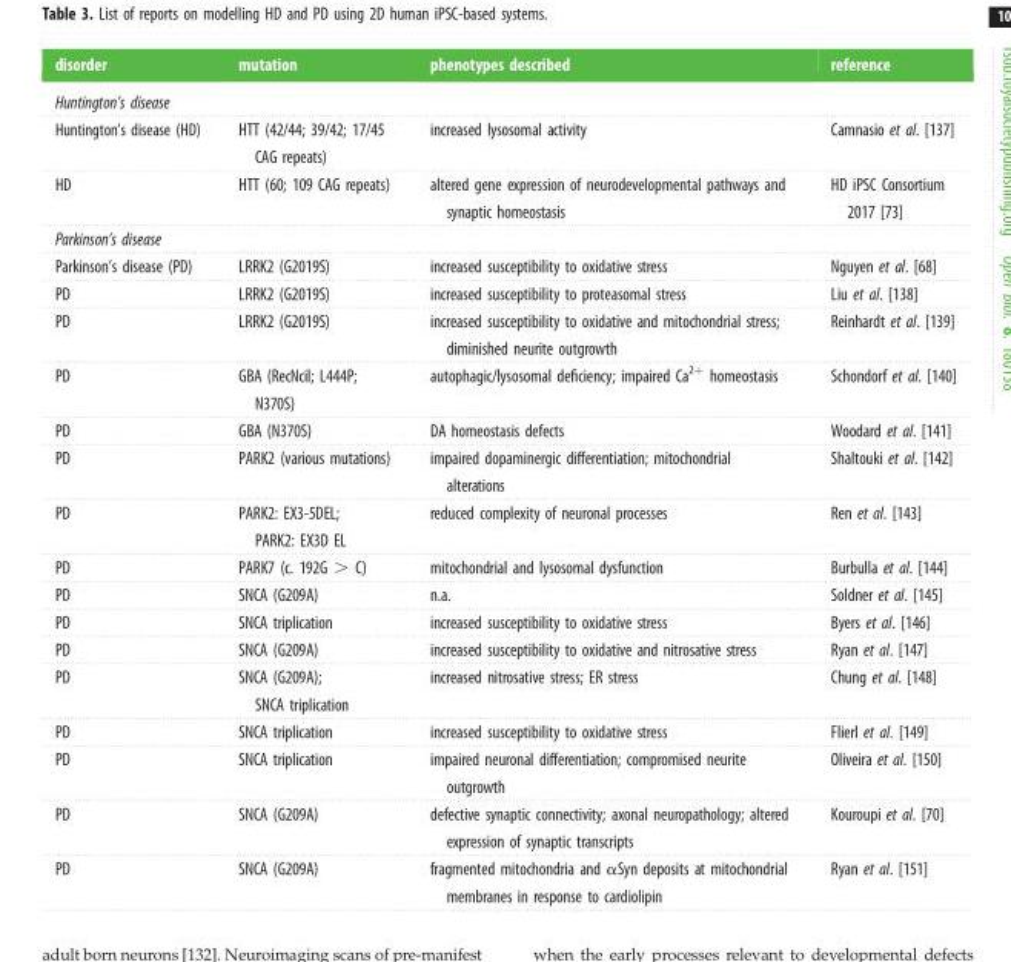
<table><thead><tr><td>disorder</td><td>mutation</td><td>phenotypes described</td><td>reference</td></tr></thead><tbody><tr><td colspan="4">Huntington’s disease</td></tr><tr><td>Huntington’s disease (HD)</td><td>HTT (42/44; 39/42; 17/45 CAG repeats)</td><td>increased lysosomal activity</td><td>Camnasio et al. [137]</td></tr><tr><td>HD</td><td>HTT (60; 109 CAG repeats)</td><td>altered gene expression of neurodevelopmental pathways and synaptic homeostasis</td><td>HD iPSC Consortium 2017 [73]</td></tr><tr><td colspan="4">Parkinson’s disease</td></tr><tr><td>Parkinson’s disease (PD)</td><td>LRRK2 (G2019S)</td><td>increased susceptibility to oxidative stress</td><td>Nguyen et al. [68]</td></tr><tr><td>PD</td><td>LRRK2 (G2019S)</td><td>increased susceptibility to proteasomal stress</td><td>Liu et al. [138]</td></tr><tr><td>PD</td><td>LRRK2 (G2019S)</td><td>increased susceptibility to oxidative and mitochondrial stress; diminished neurite outgrowth</td><td>Reinhardt et al. [139]</td></tr><tr><td>PD</td><td>GBA (RecNcil; L444P; N370S)</td><td>autophagic/lysosomal deficiency; impaired Ca<sup>2+</sup> homeostasis</td><td>Schondorf et al. [140]</td></tr><tr><td>PD</td><td>GBA (N370S)</td><td>DA homeostasis defects</td><td>Woodard et al. [141]</td></tr><tr><td>PD</td><td>PARK2 (various mutations)</td><td>impaired dopaminergic differentiation; mitochondrial alterations</td><td>Shaltouki et al. [142]</td></tr><tr><td>PD</td><td>PARK2: EX3-5DEL; PARK2: EX3D EL</td><td>reduced complexity of neuronal processes</td><td>Ren et al. [143]</td></tr><tr><td>PD</td><td>PARK7 (c. 192G &gt; C)</td><td>mitochondrial and lysosomal dysfunction</td><td>Burbulla et al. [144]</td></tr><tr><td>PD</td><td>SNCA (G209A)</td><td>n.a.</td><td>Soldner et al. [145]</td></tr><tr><td>PD</td><td>SNCA triplication</td><td>increased susceptibility to oxidative stress</td><td>Byers et al. [146]</td></tr><tr><td>PD</td><td>SNCA (G209A)</td><td>increased susceptibility to oxidative and nitrosative stress</td><td>Ryan et al. [147]</td></tr><tr><td>PD</td><td>SNCA (G209A); SNCA triplication</td><td>increased nitrosative stress; ER stress</td><td>Chung et al. [148]</td></tr><tr><td>PD</td><td>SNCA triplication</td><td>increased susceptibility to oxidative stress</td><td>Flierl et al. [149]</td></tr><tr><td>PD</td><td>SNCA triplication</td><td>impaired neuronal differentiation; compromised neurite outgrowth</td><td>Oliveira et al. [150]</td></tr><tr><td>PD</td><td>SNCA (G209A)</td><td>defective synaptic connectivity; axonal neuropathology; altered expression of synaptic transcripts</td><td>Kouroupi et al. [70]</td></tr><tr><td>PD</td><td>SNCA (G209A)</td><td>fragmented mitochondria and αSyn deposits at mitochondrial membranes in response to cardiolipin</td><td>Ryan et al. [151]</td></tr></tbody></table>